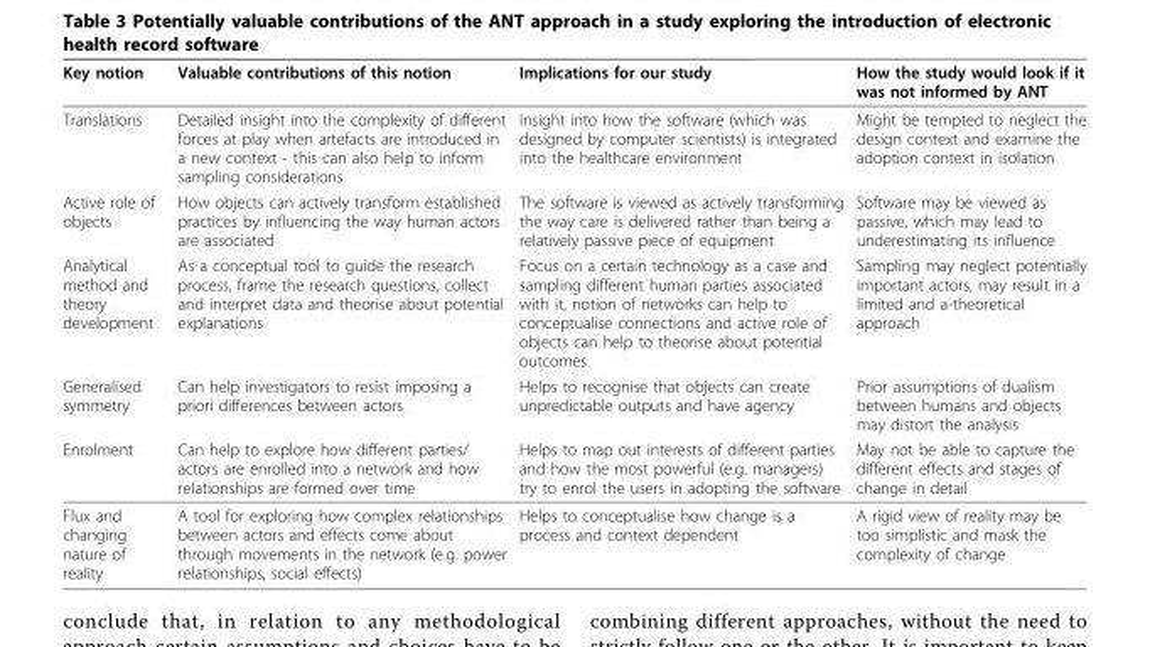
<table><thead><tr><td>Key notion</td><td>Valuable contributions of this notion</td><td>Implications for our study</td><td>How the study would look if it was not informed by ANT</td></tr></thead><tbody><tr><td>Translations</td><td>Detailed insight into the complexity of different forces at play when artefacts are introduced in a new context - this can also help to inform sampling considerations</td><td>Insight into how the software (which was designed by computer scientists) is integrated into the healthcare environment</td><td>Might be tempted to neglect the design context and examine the adoption context in isolation</td></tr><tr><td>Active role of objects</td><td>How objects can actively transform established practices by influencing the way human actors are associated</td><td>The software is viewed as actively transforming the way care is delivered rather than being a relatively passive piece of equipment</td><td>Software may be viewed as passive, which may lead to underestimating its influence</td></tr><tr><td>Analytical method and theory development</td><td>As a conceptual tool to guide the research process, frame the research questions, collect and interpret data and theorise about potential explanations</td><td>Focus on a certain technology as a case and sampling different human parties associated with it, notion of networks can help to conceptualise connections and active role of objects can help to theorise about potential outcomes</td><td>Sampling may neglect potentially important actors, may result in a limited and a-theoretical approach</td></tr><tr><td>Generalised symmetry</td><td>Can help investigators to resist imposing a priori differences between actors</td><td>Helps to recognise that objects can create unpredictable outputs and have agency</td><td>Prior assumptions of dualism between humans and objects may distort the analysis</td></tr><tr><td>Enrolment</td><td>Can help to explore how different parties/ actors are enrolled into a network and how relationships are formed over time</td><td>Helps to map out interests of different parties and how the most powerful (e.g. managers) try to enrol the users in adopting the software</td><td>May not be able to capture the different effects and stages of change in detail</td></tr><tr><td>Flux and changing nature of reality</td><td>A tool for exploring how complex relationships between actors and effects come about through movements in the network (e.g. power relationships, social effects)</td><td>Helps to conceptualise how change is a process and context dependent</td><td>A rigid view of reality may be too simplistic and mask the complexity of change</td></tr></tbody></table>